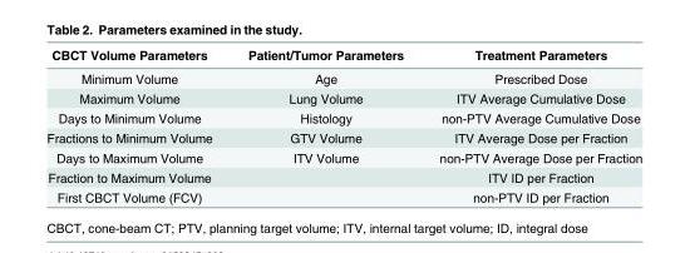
<table><thead><tr><td>CBCT Volume Parameters</td><td>Patient/Tumor Parameters</td><td>Treatment Parameters</td></tr></thead><tbody><tr><td>Minimum Volume</td><td>Age</td><td>Prescribed Dose</td></tr><tr><td>Maximum Volume</td><td>Lung Volume</td><td>ITV Average Cumulative Dose</td></tr><tr><td>Days to Minimum Volume</td><td>Histology</td><td>non-PTV Average Cumulative Dose</td></tr><tr><td>Fractions to Minimum Volume</td><td>GTV Volume</td><td>ITV Average Dose per Fraction</td></tr><tr><td>Days to Maximum Volume</td><td>ITV Volume</td><td>non-PTV Average Dose per Fraction</td></tr><tr><td>Fraction to Maximum Volume</td><td></td><td>ITV ID per Fraction</td></tr><tr><td>First CBCT Volume (FCV)</td><td></td><td>non-PTV ID per Fraction</td></tr></tbody></table>